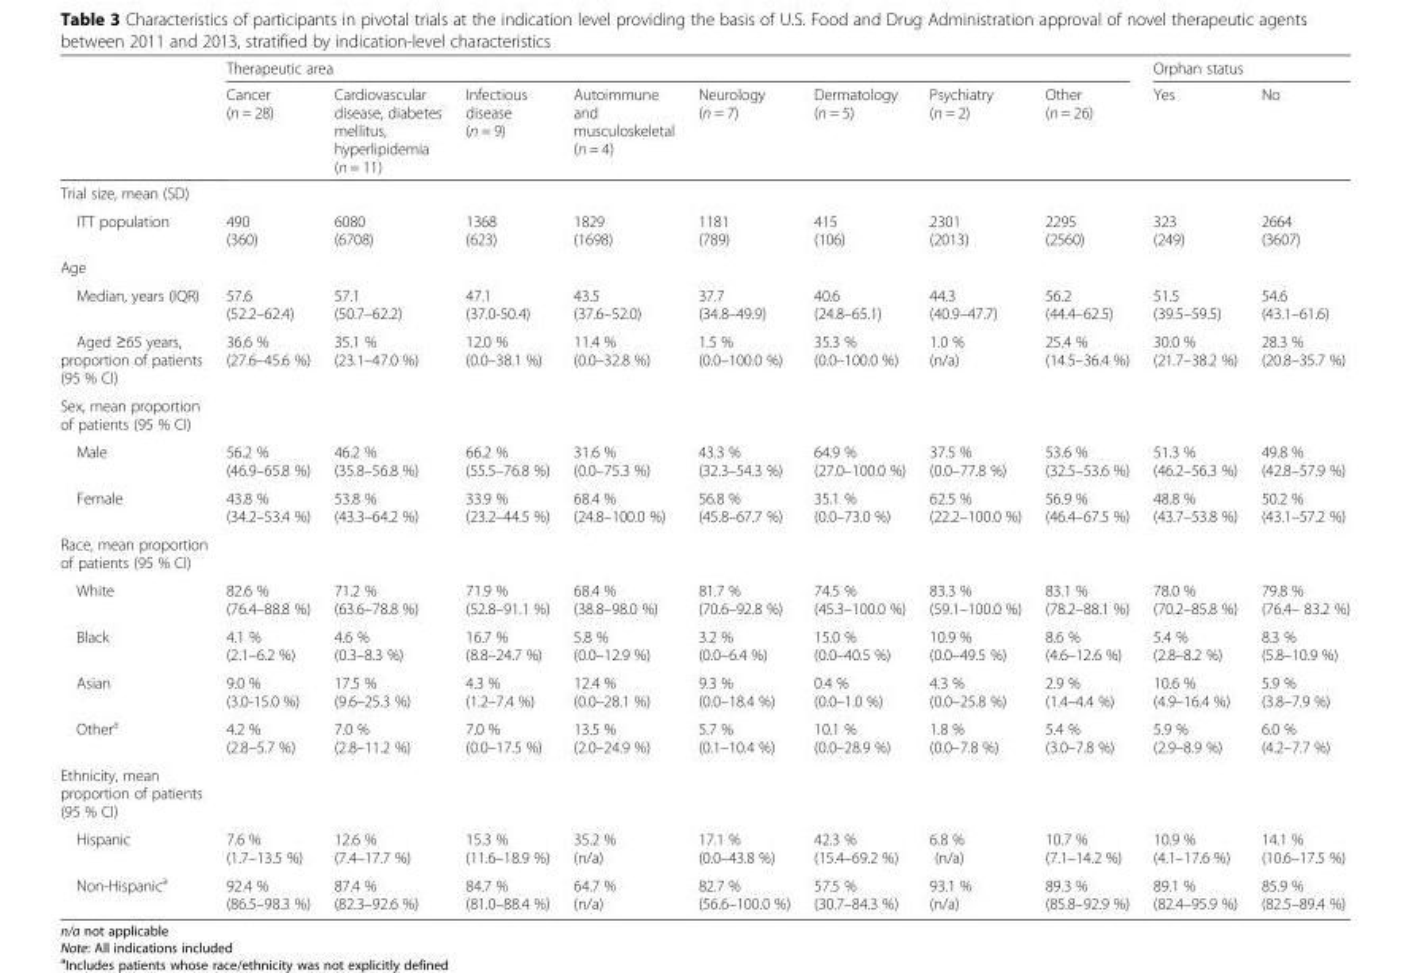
<table><thead><tr><td rowspan="2"></td><td colspan="8">Therapeutic area</td><td colspan="2">Orphan status</td></tr><tr><td>Cancer (n = 28)</td><td>Cardiovascular disease, diabetes mellitus, hyperlipidemia (n = 11)</td><td>Infectious disease (n = 9)</td><td>Autoimmune and musculoskeletal (n = 4)</td><td>Neurology (n = 7)</td><td>Dermatology (n = 5)</td><td>Psychiatry (n = 2)</td><td>Other (n = 26)</td><td>Yes</td><td>No</td></tr></thead><tbody><tr><td colspan="11">Trial size, mean (SD)</td></tr><tr><td>ITT population</td><td>490 (360)</td><td>6080 (6708)</td><td>1368 (623)</td><td>1829 (1698)</td><td>1181 (789)</td><td>415 (106)</td><td>2301 (2013)</td><td>2295 (2560)</td><td>323 (249)</td><td>2664 (3607)</td></tr><tr><td colspan="11">Age</td></tr><tr><td>Median, years (IQR)</td><td>57.6 (52.2–62.4)</td><td>57.1 (50.7–62.2)</td><td>47.1 (37.0-50.4)</td><td>43.5 (37.6–52.0)</td><td>37.7 (34.8–49.9)</td><td>40.6 (24.8–65.1)</td><td>44.3 (40.9–47.7)</td><td>56.2 (44.4–62.5)</td><td>51.5 (39.5–59.5)</td><td>54.6 (43.1–61.6)</td></tr><tr><td>Aged ≥65 years, proportion of patients (95 % CI)</td><td>36.6 % (27.6–45.6 %)</td><td>35.1 % (23.1–47.0 %)</td><td>12.0 % (0.0–38.1 %)</td><td>11.4 % (0.0–32.8 %)</td><td>1.5 % (0.0–100.0 %)</td><td>35.3 % (0.0–100.0 %)</td><td>1.0 % (n/a)</td><td>25.4 % (14.5–36.4 %)</td><td>30.0 % (21.7–38.2 %)</td><td>28.3 % (20.8–35.7 %)</td></tr><tr><td colspan="11">Sex, mean proportion of patients (95 % CI)</td></tr><tr><td>Male</td><td>56.2 % (46.9–65.8 %)</td><td>46.2 % (35.8–56.8 %)</td><td>66.2 % (55.5–76.8 %)</td><td>31.6 % (0.0–75.3 %)</td><td>43.3 % (32.3–54.3 %)</td><td>64.9 % (27.0–100.0 %)</td><td>37.5 % (0.0–77.8 %)</td><td>53.6 % (32.5–53.6 %)</td><td>51.3 % (46.2–56.3 %)</td><td>49.8 % (42.8–57.9 %)</td></tr><tr><td>Female</td><td>43.8 % (34.2–53.4 %)</td><td>53.8 % (43.3–64.2 %)</td><td>33.9 % (23.2–44.5 %)</td><td>68.4 % (24.8–100.0 %)</td><td>56.8 % (45.8–67.7 %)</td><td>35.1 % (0.0–73.0 %)</td><td>62.5 % (22.2–100.0 %)</td><td>56.9 % (46.4–67.5 %)</td><td>48.8 % (43.7–53.8 %)</td><td>50.2 % (43.1–57.2 %)</td></tr><tr><td colspan="11">Race, mean proportion of patients (95 % CI)</td></tr><tr><td>White</td><td>82.6 % (76.4–88.8 %)</td><td>71.2 % (63.6–78.8 %)</td><td>71.9 % (52.8–91.1 %)</td><td>68.4 % (38.8–98.0 %)</td><td>81.7 % (70.6–92.8 %)</td><td>74.5 % (45.3–100.0 %)</td><td>83.3 % (59.1–100.0 %)</td><td>83.1 % (78.2–88.1 %)</td><td>78.0 % (70.2–85.8 %)</td><td>79.8 % (76.4– 83.2 %)</td></tr><tr><td>Black</td><td>4.1 % (2.1–6.2 %)</td><td>4.6 % (0.3–8.3 %)</td><td>16.7 % (8.8–24.7 %)</td><td>5.8 % (0.0–12.9 %)</td><td>3.2 % (0.0–6.4 %)</td><td>15.0 % (0.0–40.5 %)</td><td>10.9 % (0.0–49.5 %)</td><td>8.6 % (4.6–12.6 %)</td><td>5.4 % (2.8–8.2 %)</td><td>8.3 % (5.8–10.9 %)</td></tr><tr><td>Asian</td><td>9.0 % (3.0-15.0 %)</td><td>17.5 % (9.6–25.3 %)</td><td>4.3 % (1.2–7.4 %)</td><td>12.4 % (0.0–28.1 %)</td><td>9.3 % (0.0–18.4 %)</td><td>0.4 % (0.0–1.0 %)</td><td>4.3 % (0.0–25.8 %)</td><td>2.9 % (1.4–4.4 %)</td><td>10.6 % (4.9–16.4 %)</td><td>5.9 % (3.8–7.9 %)</td></tr><tr><td>Other<sup>a</sup></td><td>4.2 % (2.8–5.7 %)</td><td>7.0 % (2.8–11.2 %)</td><td>7.0 % (0.0–17.5 %)</td><td>13.5 % (2.0–24.9 %)</td><td>5.7 % (0.1–10.4 %)</td><td>10.1 % (0.0–28.9 %)</td><td>1.8 % (0.0–7.8 %)</td><td>5.4 % (3.0–7.8 %)</td><td>5.9 % (2.9–8.9 %)</td><td>6.0 % (4.2–7.7 %)</td></tr><tr><td colspan="11">Ethnicity, mean proportion of patients (95 % CI)</td></tr><tr><td>Hispanic</td><td>7.6 % (1.7–13.5 %)</td><td>12.6 % (7.4–17.7 %)</td><td>15.3 % (11.6–18.9 %)</td><td>35.2 % (n/a)</td><td>17.1 % (0.0–43.8 %)</td><td>42.3 % (15.4–69.2 %)</td><td>6.8 % (n/a)</td><td>10.7 % (7.1–14.2 %)</td><td>10.9 % (4.1–17.6 %)</td><td>14.1 % (10.6–17.5 %)</td></tr><tr><td>Non-Hispanic<sup>a</sup></td><td>92.4 % (86.5–98.3 %)</td><td>87.4 % (82.3–92.6 %)</td><td>84.7 % (81.0–88.4 %)</td><td>64.7 % (n/a)</td><td>82.7 % (56.6–100.0 %)</td><td>57.5 % (30.7–84.3 %)</td><td>93.1 % (n/a)</td><td>89.3 % (85.8–92.9 %)</td><td>89.1 % (82.4–95.9 %)</td><td>85.9 % (82.5–89.4 %)</td></tr></tbody></table>